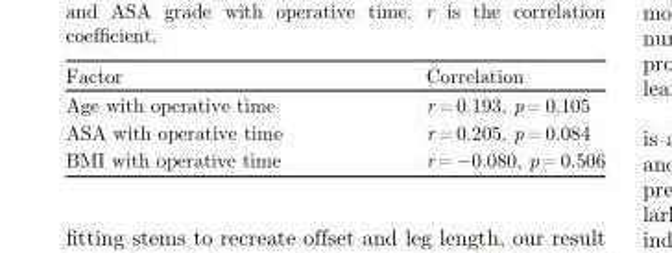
<table><thead><tr><td>Factor</td><td>Correlation</td></tr></thead><tbody><tr><td>Age with operative time</td><td>r = 0.193, p = 0.105</td></tr><tr><td>ASA with operative time</td><td>r = 0.205, p = 0.084</td></tr><tr><td>BMI with operative time</td><td>r = −0.080, p = 0.506</td></tr></tbody></table>